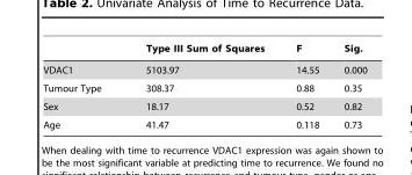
<table><thead><tr><td></td><td>Type III Sum of Squares</td><td>F</td><td>Sig.</td></tr></thead><tbody><tr><td>VDAC1</td><td>5103.97</td><td>14.55</td><td>0.000</td></tr><tr><td>Tumour Type</td><td>308.37</td><td>0.88</td><td>0.35</td></tr><tr><td>Sex</td><td>18.17</td><td>0.52</td><td>0.82</td></tr><tr><td>Age</td><td>41.47</td><td>0.118</td><td>0.73</td></tr></tbody></table>